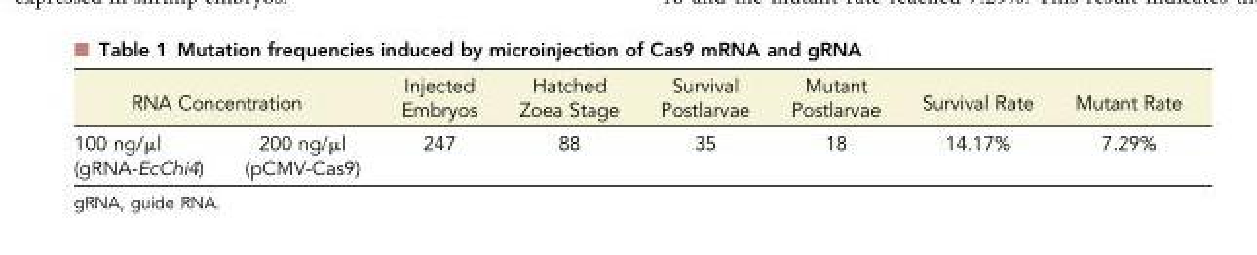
<table><thead><tr><td colspan="2">RNA Concentration</td><td rowspan="2">Injected Embryos 247</td><td rowspan="2">Hatched Zoea Stage 88</td><td rowspan="2">Survival Postlarvae 35</td><td rowspan="2">Mutant Postlarvae 18</td><td rowspan="2">Survival Rate 14.17%</td><td rowspan="2">Mutant Rate 7.29%</td></tr><tr><td>100 ng/µl (gRNA-EcChi4)</td><td>200 ng/µl (pCMV-Cas9)</td></tr></thead><tbody></tbody></table>